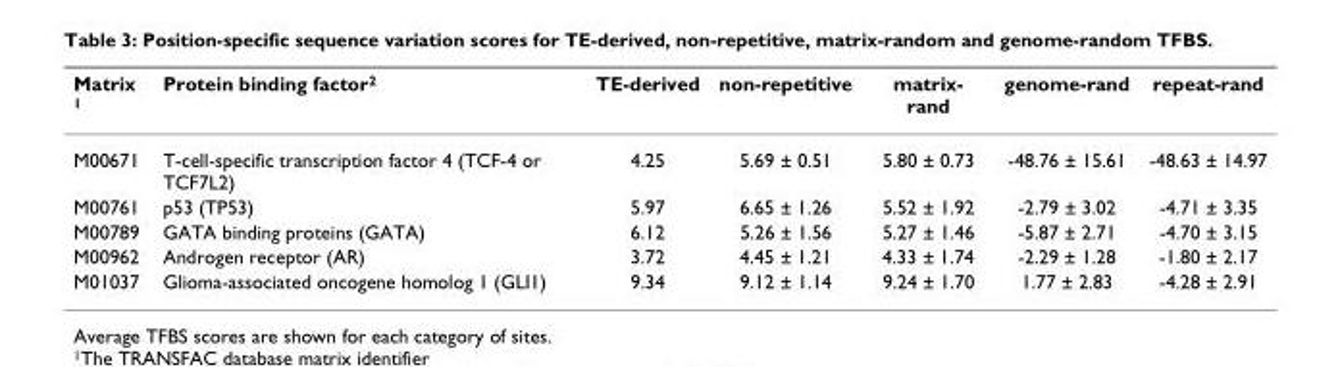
<table><thead><tr><td>Matrix <sup>1</sup></td><td>Protein binding factor<sup>2</sup></td><td>TE-derived</td><td>non-repetitive</td><td>matrix- rand</td><td>genome-rand</td><td>repeat-rand</td></tr></thead><tbody><tr><td>M00671</td><td>T-cell-specific transcription factor 4 (TCF-4 or TCF7L2)</td><td>4.25</td><td>5.69 ± 0.51</td><td>5.80 ± 0.73</td><td>-48.76 ± 15.61</td><td>-48.63 ± 14.97</td></tr><tr><td>M00761</td><td>p53 (TP53)</td><td>5.97</td><td>6.65 ± 1.26</td><td>5.52 ± 1.92</td><td>-2.79 ± 3.02</td><td>-4.71 ± 3.35</td></tr><tr><td>M00789</td><td>GATA binding proteins (GATA)</td><td>6.12</td><td>5.26 ± 1.56</td><td>5.27 ± 1.46</td><td>-5.87 ± 2.71</td><td>-4.70 ± 3.15</td></tr><tr><td>M00962</td><td>Androgen receptor (AR)</td><td>3.72</td><td>4.45 ± 1.21</td><td>4.33 ± 1.74</td><td>-2.29 ± 1.28</td><td>-1.80 ± 2.17</td></tr><tr><td>M01037</td><td>Glioma-associated oncogene homolog 1 (GLI1)</td><td>9.34</td><td>9.12 ± 1.14</td><td>9.24 ± 1.70</td><td>1.77 ± 2.83</td><td>-4.28 ± 2.91</td></tr></tbody></table>